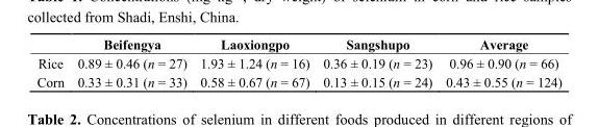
<table><thead><tr><td></td><td>Beifengya</td><td>Laoxiongpo</td><td>Sangshupo</td><td>Average</td></tr></thead><tbody><tr><td>Rice</td><td>0.89 ± 0.46 (n = 27)</td><td>1.93 ± 1.24 (n = 16)</td><td>0.36 ± 0.19 (n = 23)</td><td>0.96 ± 0.90 (n = 66)</td></tr><tr><td>Corn</td><td>0.33 ± 0.31 (n = 33)</td><td>0.58 ± 0.67 (n = 67)</td><td>0.13 ± 0.15 (n = 24)</td><td>0.43 ± 0.55 (n = 124)</td></tr></tbody></table>